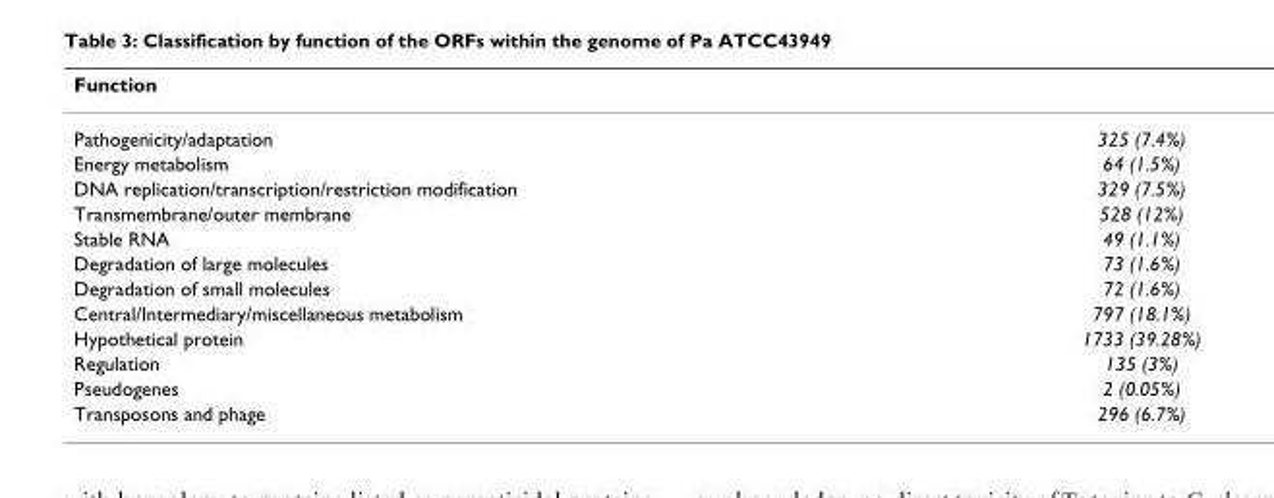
<table><thead><tr><td>Function</td><td></td></tr></thead><tbody><tr><td>Pathogenicity/adaptation</td><td>325 (7.4%)</td></tr><tr><td>Energy metabolism</td><td>64 (1.5%)</td></tr><tr><td>DNA replication/transcription/restriction modification</td><td>329 (7.5%)</td></tr><tr><td>Transmembrane/outer membrane</td><td>528 (12%)</td></tr><tr><td>Stable RNA</td><td>49 (1.1%)</td></tr><tr><td>Degradation of large molecules</td><td>73 (1.6%)</td></tr><tr><td>Degradation of small molecules</td><td>72 (1.6%)</td></tr><tr><td>Central/Intermediary/miscellaneous metabolism</td><td>797 (18.1%)</td></tr><tr><td>Hypothetical protein</td><td>1733 (39.28%)</td></tr><tr><td>Regulation</td><td>135 (3%)</td></tr><tr><td>Pseudogenes</td><td>2 (0.05%)</td></tr><tr><td>Transposons and phage</td><td>296 (6.7%)</td></tr></tbody></table>